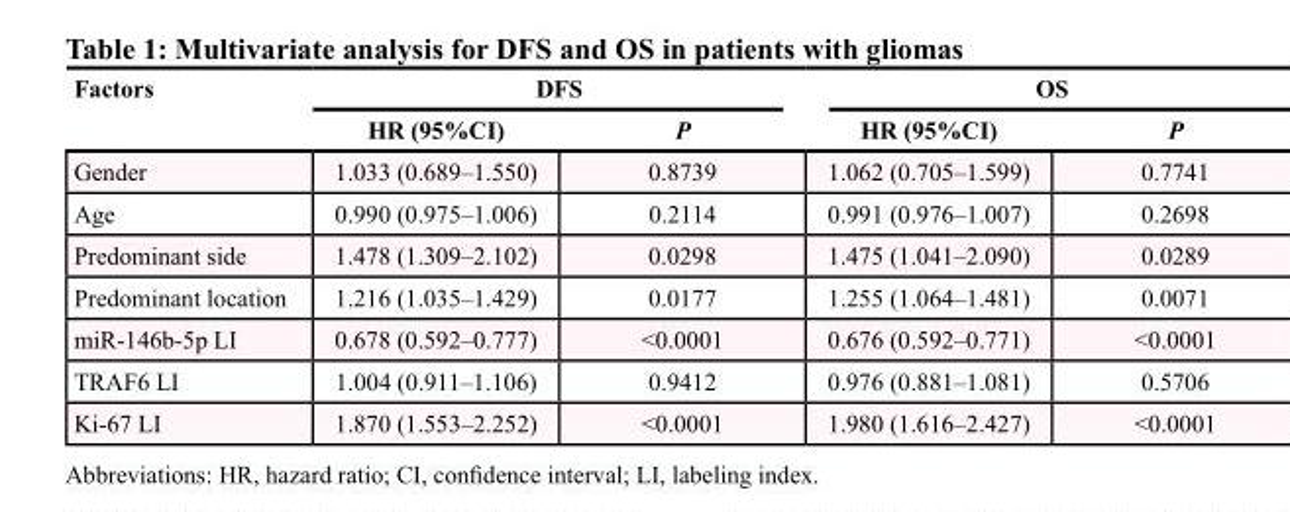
<table><thead><tr><td rowspan="2">Factors</td><td colspan="2">DFS</td><td colspan="2">OS</td></tr><tr><td>HR (95%CI)</td><td>P</td><td>HR (95%CI)</td><td>P</td></tr></thead><tbody><tr><td>Gender</td><td>1.033 (0.689–1.550)</td><td>0.8739</td><td>1.062 (0.705–1.599)</td><td>0.7741</td></tr><tr><td>Age</td><td>0.990 (0.975–1.006)</td><td>0.2114</td><td>0.991 (0.976–1.007)</td><td>0.2698</td></tr><tr><td>Predominant side</td><td>1.478 (1.309–2.102)</td><td>0.0298</td><td>1.475 (1.041–2.090)</td><td>0.0289</td></tr><tr><td>Predominant location</td><td>1.216 (1.035–1.429)</td><td>0.0177</td><td>1.255 (1.064–1.481)</td><td>0.0071</td></tr><tr><td>miR-146b-5p LI</td><td>0.678 (0.592–0.777)</td><td>&lt;0.0001</td><td>0.676 (0.592–0.771)</td><td>&lt;0.0001</td></tr><tr><td>TRAF6 LI</td><td>1.004 (0.911–1.106)</td><td>0.9412</td><td>0.976 (0.881–1.081)</td><td>0.5706</td></tr><tr><td>Ki-67 LI</td><td>1.870 (1.553–2.252)</td><td>&lt;0.0001</td><td>1.980 (1.616–2.427)</td><td>&lt;0.0001</td></tr></tbody></table>